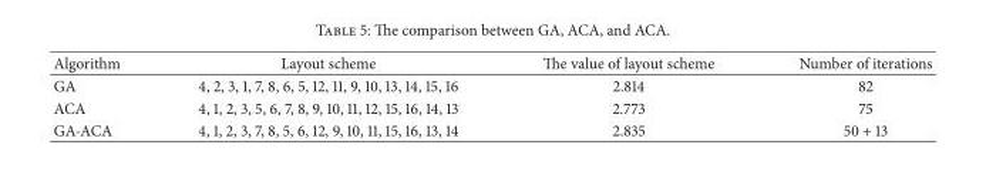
<table><thead><tr><td>Algorithm</td><td>Layout scheme</td><td>The value of layout scheme</td><td>Number of iterations</td></tr></thead><tbody><tr><td>GA</td><td>4, 2, 3, 1, 7, 8, 6, 5, 12, 11, 9, 10, 13, 14, 15, 16</td><td>2.814</td><td>82</td></tr><tr><td>ACA</td><td>4, 1, 2, 3, 5, 6, 7, 8, 9, 10, 11, 12, 15, 16, 14, 13</td><td>2.773</td><td>75</td></tr><tr><td>GA-ACA</td><td>4, 1, 2, 3, 7, 8, 5, 6, 12, 9, 10, 11, 15, 16, 13, 14</td><td>2.835</td><td>50 + 13</td></tr></tbody></table>